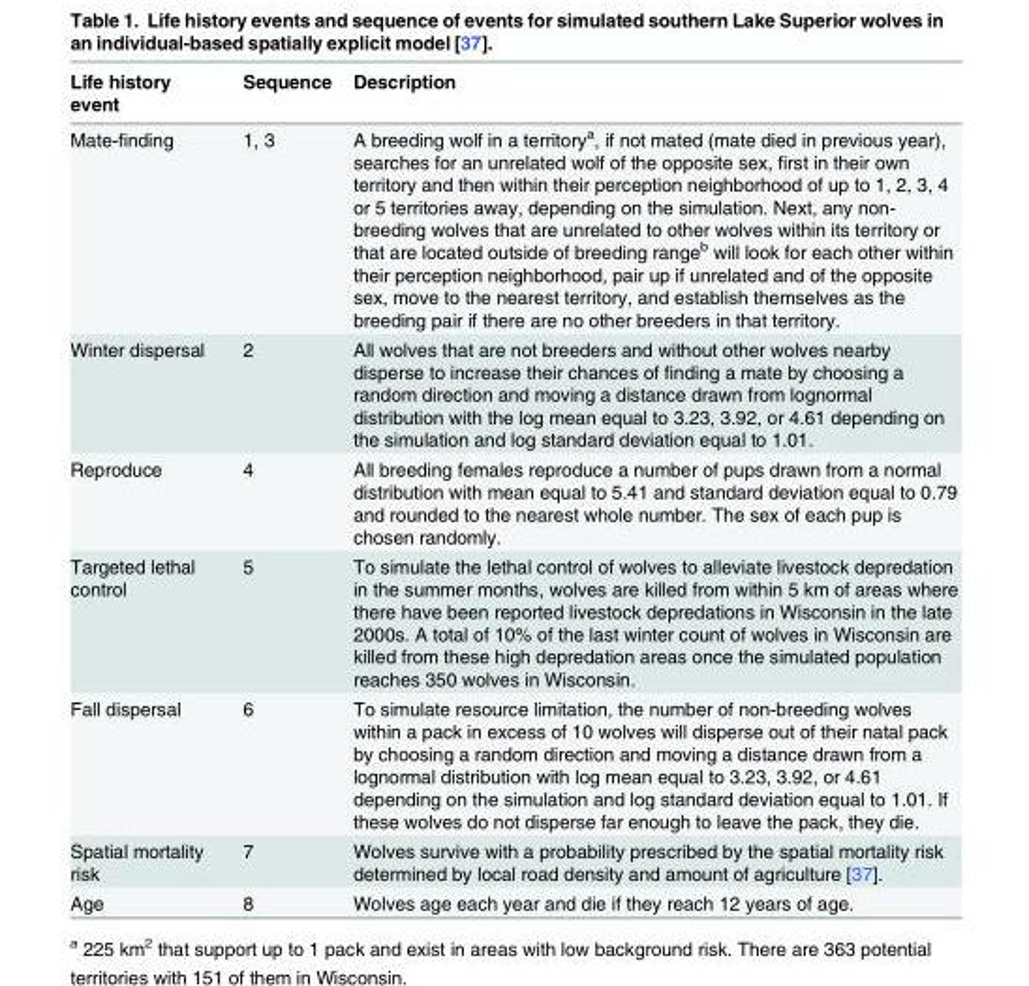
<table><thead><tr><td>Life history event</td><td>Sequence</td><td>Description</td></tr></thead><tbody><tr><td>Mate-finding</td><td>1, 3</td><td>A breeding wolf in a territory<sup>a</sup>, if not mated (mate died in previous year), searches for an unrelated wolf of the opposite sex, first in their own territory and then within their perception neighborhood of up to 1, 2, 3, 4 or 5 territories away, depending on the simulation. Next, any non- breeding wolves that are unrelated to other wolves within its territory or that are located outside of breeding range<sup>b</sup> will look for each other within their perception neighborhood, pair up if unrelated and of the opposite sex, move to the nearest territory, and establish themselves as the breeding pair if there are no other breeders in that territory.</td></tr><tr><td>Winter dispersal</td><td>2</td><td>All wolves that are not breeders and without other wolves nearby disperse to increase their chances of finding a mate by choosing a random direction and moving a distance drawn from lognormal distribution with the log mean equal to 3.23, 3.92, or 4.61 depending on the simulation and log standard deviation equal to 1.01.</td></tr><tr><td>Reproduce</td><td>4</td><td>All breeding females reproduce a number of pups drawn from a normal distribution with mean equal to 5.41 and standard deviation equal to 0.79 and rounded to the nearest whole number. The sex of each pup is chosen randomly.</td></tr><tr><td>Targeted lethal control</td><td>5</td><td>To simulate the lethal control of wolves to alleviate livestock depredation in the summer months, wolves are killed from within 5 km of areas where there have been reported livestock depredations in Wisconsin in the late 2000s. A total of 10% of the last winter count of wolves in Wisconsin are killed from these high depredation areas once the simulated population reaches 350 wolves in Wisconsin.</td></tr><tr><td>Fall dispersal</td><td>6</td><td>To simulate resource limitation, the number of non-breeding wolves within a pack in excess of 10 wolves will disperse out of their natal pack by choosing a random direction and moving a distance drawn from a lognormal distribution with log mean equal to 3.23, 3.92, or 4.61 depending on the simulation and log standard deviation equal to 1.01. If these wolves do not disperse far enough to leave the pack, they die.</td></tr><tr><td>Spatial mortality risk</td><td>7</td><td>Wolves survive with a probability prescribed by the spatial mortality risk determined by local road density and amount of agriculture [37].</td></tr><tr><td>Age</td><td>8</td><td>Wolves age each year and die if they reach 12 years of age.</td></tr></tbody></table>